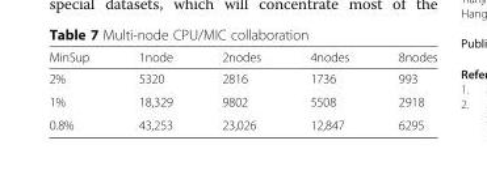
<table><thead><tr><td>MinSup</td><td>1node</td><td>2nodes</td><td>4nodes</td><td>8nodes</td></tr></thead><tbody><tr><td>2%</td><td>5320</td><td>2816</td><td>1736</td><td>993</td></tr><tr><td>1%</td><td>18,329</td><td>9802</td><td>5508</td><td>2918</td></tr><tr><td>0.8%</td><td>43,253</td><td>23,026</td><td>12,847</td><td>6295</td></tr></tbody></table>